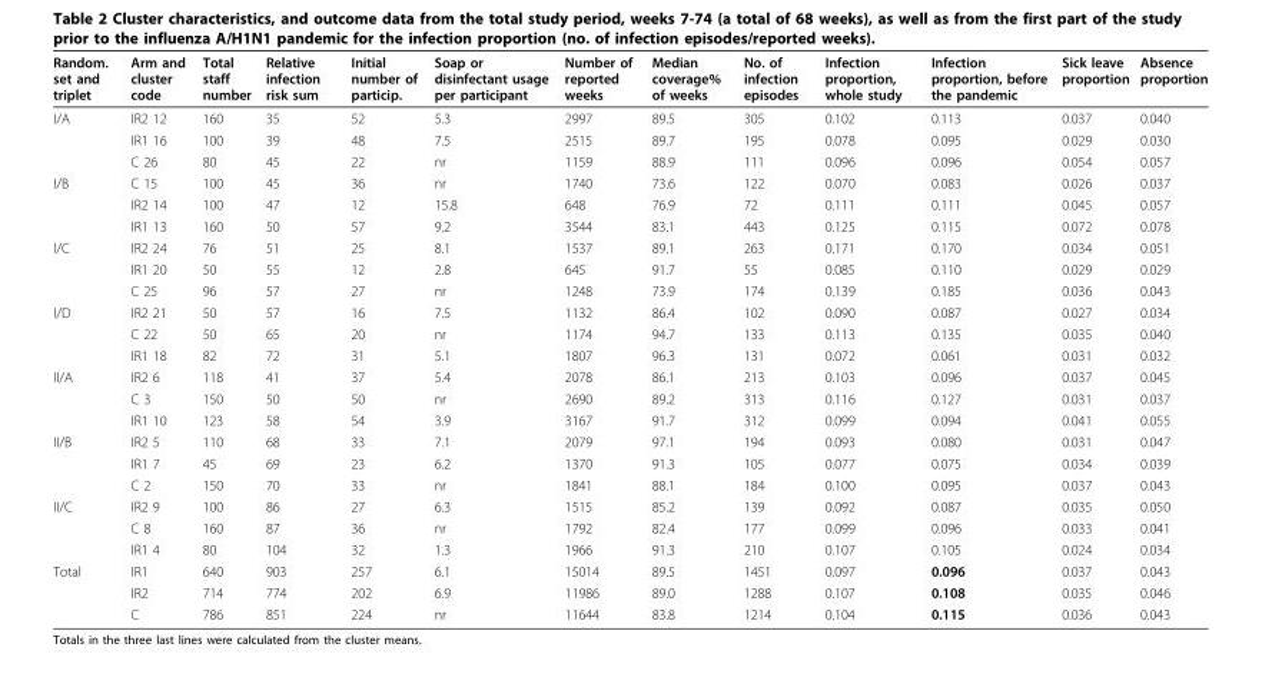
<table><thead><tr><td>Random. set and triplet</td><td>Arm and cluster code</td><td>Total staff number</td><td>Relative infection risk sum</td><td>Initial number of particip.</td><td>Soap or disinfectant usage per participant</td><td>Number of reported weeks</td><td>Median coverage% of weeks</td><td>No. of infection episodes</td><td>Infection proportion, whole study</td><td>Infection proportion, before the pandemic</td><td>Sick leave proportion</td><td>Absence proportion</td></tr></thead><tbody><tr><td rowspan="3">I/A</td><td>IR2 12</td><td>160</td><td>35</td><td>52</td><td>5.3</td><td>2997</td><td>89.5</td><td>305</td><td>0.102</td><td>0.113</td><td>0.037</td><td>0.040</td></tr><tr><td>IR1 16</td><td>100</td><td>39</td><td>48</td><td>7.5</td><td>2515</td><td>89.7</td><td>195</td><td>0.078</td><td>0.095</td><td>0.029</td><td>0.030</td></tr><tr><td>C 26</td><td>80</td><td>45</td><td>22</td><td>nr</td><td>1159</td><td>88.9</td><td>111</td><td>0.096</td><td>0.096</td><td>0.054</td><td>0.057</td></tr><tr><td rowspan="3">I/B</td><td>C 15</td><td>100</td><td>45</td><td>36</td><td>nr</td><td>1740</td><td>73.6</td><td>122</td><td>0.070</td><td>0.083</td><td>0.026</td><td>0.037</td></tr><tr><td>IR2 14</td><td>100</td><td>47</td><td>12</td><td>15.8</td><td>648</td><td>76.9</td><td>72</td><td>0.111</td><td>0.111</td><td>0.045</td><td>0.057</td></tr><tr><td>IR1 13</td><td>160</td><td>50</td><td>57</td><td>9.2</td><td>3544</td><td>83.1</td><td>443</td><td>0.125</td><td>0.115</td><td>0.072</td><td>0.078</td></tr><tr><td rowspan="3">I/C</td><td>IR2 24</td><td>76</td><td>51</td><td>25</td><td>8.1</td><td>1537</td><td>89.1</td><td>263</td><td>0.171</td><td>0.170</td><td>0.034</td><td>0.051</td></tr><tr><td>IR1 20</td><td>50</td><td>55</td><td>12</td><td>2.8</td><td>645</td><td>91.7</td><td>55</td><td>0.085</td><td>0.110</td><td>0.029</td><td>0.029</td></tr><tr><td>C 25</td><td>96</td><td>57</td><td>27</td><td>nr</td><td>1248</td><td>73.9</td><td>174</td><td>0.139</td><td>0.185</td><td>0.036</td><td>0.043</td></tr><tr><td rowspan="3">I/D</td><td>IR2 21</td><td>50</td><td>57</td><td>16</td><td>7.5</td><td>1132</td><td>86.4</td><td>102</td><td>0.090</td><td>0.087</td><td>0.027</td><td>0.034</td></tr><tr><td>C 22</td><td>50</td><td>65</td><td>20</td><td>nr</td><td>1174</td><td>94.7</td><td>133</td><td>0.113</td><td>0.135</td><td>0.035</td><td>0.040</td></tr><tr><td>IR1 18</td><td>82</td><td>72</td><td>31</td><td>5.1</td><td>1807</td><td>96.3</td><td>131</td><td>0.072</td><td>0.061</td><td>0.031</td><td>0.032</td></tr><tr><td rowspan="3">II/A</td><td>IR2 6</td><td>118</td><td>41</td><td>37</td><td>5.4</td><td>2078</td><td>86.1</td><td>213</td><td>0.103</td><td>0.096</td><td>0.037</td><td>0.045</td></tr><tr><td>C 3</td><td>150</td><td>50</td><td>50</td><td>nr</td><td>2690</td><td>89.2</td><td>313</td><td>0.116</td><td>0.127</td><td>0.031</td><td>0.037</td></tr><tr><td>IR1 10</td><td>123</td><td>58</td><td>54</td><td>3.9</td><td>3167</td><td>91.7</td><td>312</td><td>0.099</td><td>0.094</td><td>0.041</td><td>0.055</td></tr><tr><td rowspan="3">II/B</td><td>IR2 5</td><td>110</td><td>68</td><td>33</td><td>7.1</td><td>2079</td><td>97.1</td><td>194</td><td>0.093</td><td>0.080</td><td>0.031</td><td>0.047</td></tr><tr><td>IR1 7</td><td>45</td><td>69</td><td>23</td><td>6.2</td><td>1370</td><td>91.3</td><td>105</td><td>0.077</td><td>0.075</td><td>0.034</td><td>0.039</td></tr><tr><td>C 2</td><td>150</td><td>70</td><td>33</td><td>nr</td><td>1841</td><td>88.1</td><td>184</td><td>0.100</td><td>0.095</td><td>0.037</td><td>0.043</td></tr><tr><td rowspan="3">II/C</td><td>IR2 9</td><td>100</td><td>86</td><td>27</td><td>6.3</td><td>1515</td><td>85.2</td><td>139</td><td>0.092</td><td>0.087</td><td>0.035</td><td>0.050</td></tr><tr><td>C 8</td><td>160</td><td>87</td><td>36</td><td>nr</td><td>1792</td><td>82.4</td><td>177</td><td>0.099</td><td>0.096</td><td>0.033</td><td>0.041</td></tr><tr><td>IR1 4</td><td>80</td><td>104</td><td>32</td><td>1.3</td><td>1966</td><td>91.3</td><td>210</td><td>0.107</td><td>0.105</td><td>0.024</td><td>0.034</td></tr><tr><td rowspan="3">Total</td><td>IR1</td><td>640</td><td>903</td><td>257</td><td>6.1</td><td>15014</td><td>89.5</td><td>1451</td><td>0.097</td><td>0.096</td><td>0.037</td><td>0.043</td></tr><tr><td>IR2</td><td>714</td><td>774</td><td>202</td><td>6.9</td><td>11986</td><td>89.0</td><td>1288</td><td>0.107</td><td>0.108</td><td>0.035</td><td>0.046</td></tr><tr><td>C</td><td>786</td><td>851</td><td>224</td><td>nr</td><td>11644</td><td>83.8</td><td>1214</td><td>0.104</td><td>0.115</td><td>0.036</td><td>0.043</td></tr></tbody></table>